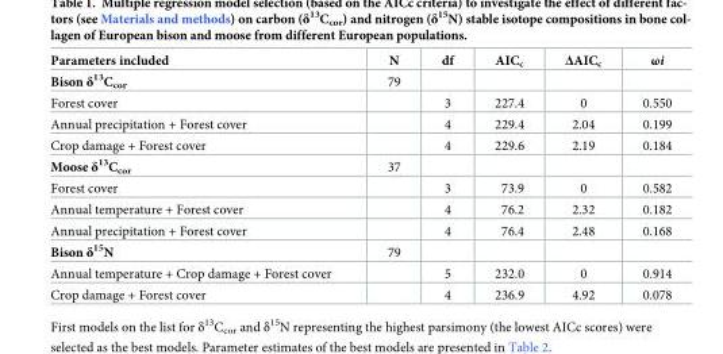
<table><thead><tr><td>Parameters included</td><td>N</td><td>df</td><td>AIC<sub>c</sub></td><td>ΔAIC<sub>c</sub></td><td>ωi</td></tr></thead><tbody><tr><td>Bison δ<sup>13</sup>C<sub>cor</sub></td><td>79</td><td></td><td></td><td></td><td></td></tr><tr><td>Forest cover</td><td></td><td>3</td><td>227.4</td><td>0</td><td>0.550</td></tr><tr><td>Annual precipitation + Forest cover</td><td></td><td>4</td><td>229.4</td><td>2.04</td><td>0.199</td></tr><tr><td>Crop damage + Forest cover</td><td></td><td>4</td><td>229.6</td><td>2.19</td><td>0.184</td></tr><tr><td>Moose δ<sup>13</sup>C<sub>cor</sub></td><td>37</td><td></td><td></td><td></td><td></td></tr><tr><td>Forest cover</td><td></td><td>3</td><td>73.9</td><td>0</td><td>0.582</td></tr><tr><td>Annual temperature + Forest cover</td><td></td><td>4</td><td>76.2</td><td>2.32</td><td>0.182</td></tr><tr><td>Annual precipitation + Forest cover</td><td></td><td>4</td><td>76.4</td><td>2.48</td><td>0.168</td></tr><tr><td>Bison δ<sup>15</sup>N</td><td>79</td><td></td><td></td><td></td><td></td></tr><tr><td>Annual temperature + Crop damage + Forest cover</td><td></td><td>5</td><td>232.0</td><td>0</td><td>0.914</td></tr><tr><td>Crop damage + Forest cover</td><td></td><td>4</td><td>236.9</td><td>4.92</td><td>0.078</td></tr></tbody></table>